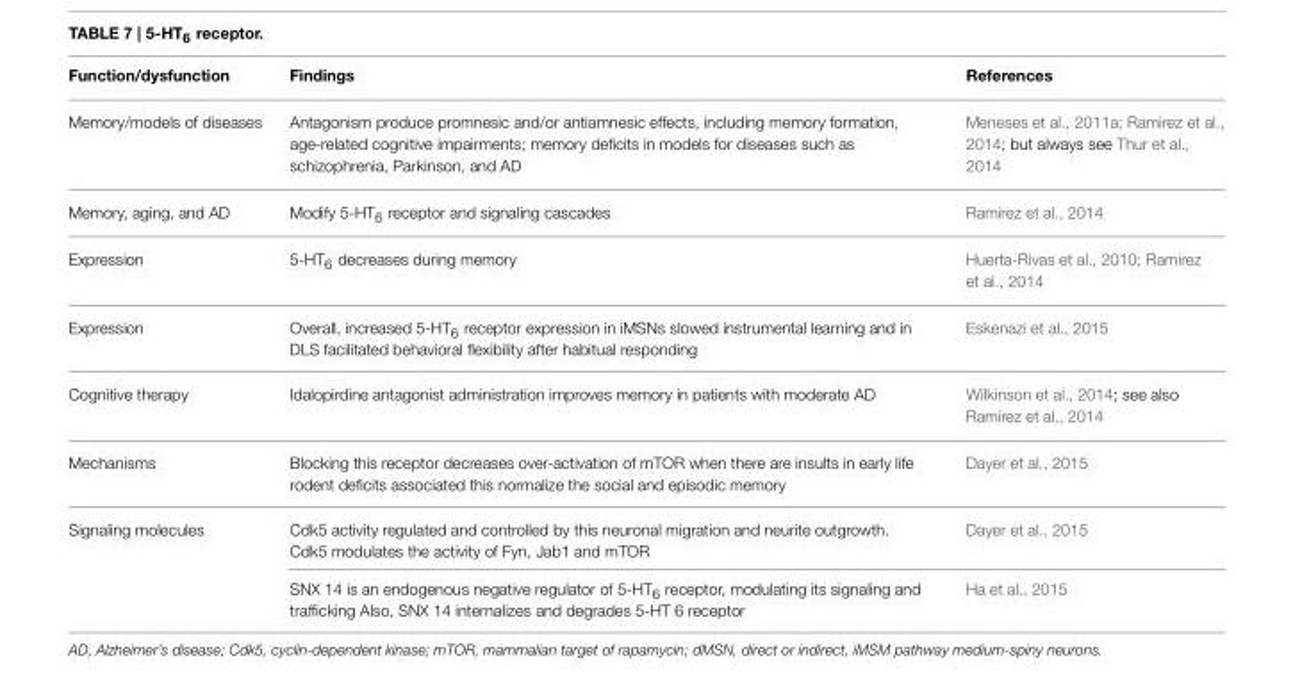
<table><thead><tr><td>Function/dysfunction</td><td>Findings</td><td>References</td></tr></thead><tbody><tr><td>Memory/models of diseases</td><td>Antagonism produce promnesic and/or antiamnesic effects, including memory formation, age-related cognitive impairments; memory deficits in models for diseases such as schizophrenia, Parkinson, and AD</td><td>Meneses et al., 2011a; Ramirez et al., 2014; but always see Thur et al., 2014</td></tr><tr><td>Memory, aging, and AD</td><td>Modify 5-HT<sub>6</sub> receptor and signaling cascades</td><td>Ramirez et al., 2014</td></tr><tr><td>Expression</td><td>5-HT<sub>6</sub> decreases during memory</td><td>Huerta-Rivas et al., 2010; Ramirez et al., 2014</td></tr><tr><td>Expression</td><td>Overall, increased 5-HT<sub>6</sub> receptor expression in iMSNs slowed instrumental learning and in DLS facilitated behavioral flexibility after habitual responding</td><td>Eskenazi et al., 2015</td></tr><tr><td>Cognitive therapy</td><td>Idalopirdine antagonist administration improves memory in patients with moderate AD</td><td>Wilkinson et al., 2014; see also Ramirez et al., 2014</td></tr><tr><td>Mechanisms</td><td>Blocking this receptor decreases over-activation of mTOR when there are insults in early life rodent deficits associated this normalize the social and episodic memory</td><td>Dayer et al., 2015</td></tr><tr><td rowspan="2">Signaling molecules</td><td>Cdk5 activity regulated and controlled by this neuronal migration and neurite outgrowth. Cdk5 modulates the activity of Fyn, Jab1 and mTOR</td><td>Dayer et al., 2015</td></tr><tr><td>SNX 14 is an endogenous negative regulator of 5-HT<sub>6</sub> receptor, modulating its signaling and trafficking Also, SNX 14 internalizes and degrades 5-HT 6 receptor</td><td>Ha et al., 2015</td></tr></tbody></table>